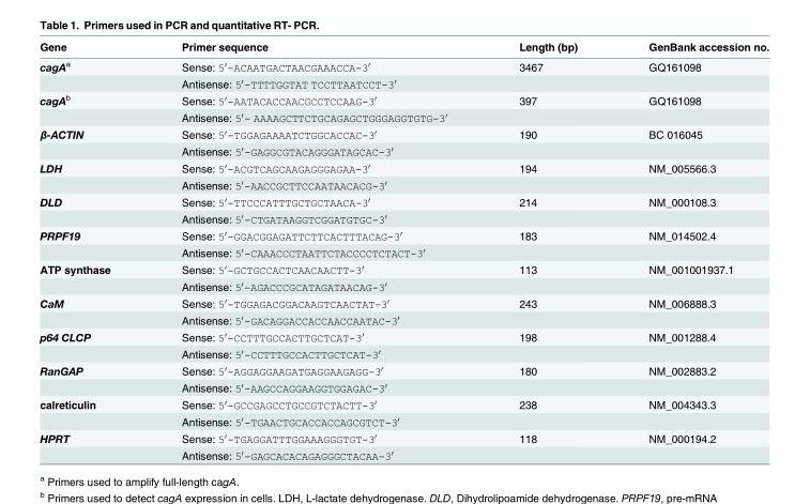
<table><thead><tr><td>Gene</td><td>Primer sequence</td><td>Length (bp)</td><td>GenBank accession no.</td></tr></thead><tbody><tr><td rowspan="2">cagA<sup>a</sup></td><td>Sense: 5′-ACAATGACTAACGAAACCA-3′</td><td>3467</td><td>GQ161098</td></tr><tr><td>Antisense: 5′-TTTTGGTAT TCCTTAATCCT-3′</td><td></td><td></td></tr><tr><td rowspan="2">cagA<sup>b</sup></td><td>Sense: 5′-AATACACCAACGCCTCCAAG-3′</td><td>397</td><td>GQ161098</td></tr><tr><td>Antisense: 5′- AAAAGCTTCTGCAGAGCTGGGAGGTGTG-3′</td><td></td><td></td></tr><tr><td rowspan="2">β-ACTIN</td><td>Sense: 5′-TGGAGAAAATCTGGCACCAC-3′</td><td>190</td><td>BC 016045</td></tr><tr><td>Antisense: 5′-GAGGCGTACAGGGATAGCAC-3′</td><td></td><td></td></tr><tr><td rowspan="2">LDH</td><td>Sense: 5′-ACGTCAGCAAGAGGGAGAA-3′</td><td>194</td><td>NM_005566.3</td></tr><tr><td>Antisense: 5′-AACCGCTTCCAATAACACG-3′</td><td></td><td></td></tr><tr><td rowspan="2">DLD</td><td>Sense: 5′-TTCCCATTTGCTGCTAACA-3′</td><td>214</td><td>NM_000108.3</td></tr><tr><td>Antisense: 5′-CTGATAAGGTCGGATGTGC-3′</td><td></td><td></td></tr><tr><td rowspan="2">PRPF19</td><td>Sense: 5′-GGACGGAGATTCTTCACTTTACAG-3′</td><td>183</td><td>NM_014502.4</td></tr><tr><td>Antisense: 5′-CAAACCCTAATTCTACCCCTCTACT-3′</td><td></td><td></td></tr><tr><td rowspan="2">ATP synthase</td><td>Sense: 5′-GCTGCCACTCAACAACTT-3′</td><td>113</td><td>NM_001001937.1</td></tr><tr><td>Antisense: 5′-AGACCCGCATAGATAACAG-3′</td><td></td><td></td></tr><tr><td rowspan="2">CaM</td><td>Sense: 5′-TGGAGACGGACAAGTCAACTAT-3′</td><td>243</td><td>NM_006888.3</td></tr><tr><td>Antisense: 5′-GACAGGACCACCAACCAATAC-3′</td><td></td><td></td></tr><tr><td rowspan="2">p64 CLCP</td><td>Sense: 5′-CCTTTGCCACTTGCTCAT-3′</td><td>198</td><td>NM_001288.4</td></tr><tr><td>Antisense: 5′-CCTTTGCCACTTGCTCAT-3′</td><td></td><td></td></tr><tr><td rowspan="2">RanGAP</td><td>Sense: 5′-AGGAGGAAGATGAGGAAGAGG-3′</td><td>180</td><td>NM_002883.2</td></tr><tr><td>Antisense: 5′-AAGCCAGGAAGGTGGAGAC-3′</td><td></td><td></td></tr><tr><td rowspan="2">calreticulin</td><td>Sense: 5′-GCCGAGCCTGCCGTCTACTT-3′</td><td>238</td><td>NM_004343.3</td></tr><tr><td>Antisense: 5′-TGAACTGCACCACCAGCGTCT-3′</td><td></td><td></td></tr><tr><td rowspan="2">HPRT</td><td>Sense: 5′-TGAGGATTTGGAAAGGGTGT-3′</td><td>118</td><td>NM_000194.2</td></tr><tr><td>Antisense: 5′-GAGCACACAGAGGGCTACAA-3′</td><td></td><td></td></tr></tbody></table>